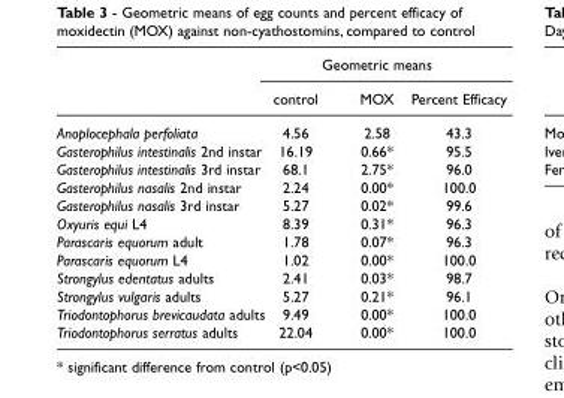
<table><thead><tr><td rowspan="2"></td><td colspan="3">Geometric means</td></tr><tr><td>control</td><td>MOX</td><td>Percent Efficacy</td></tr></thead><tbody><tr><td>Anoplocephala perfoliata</td><td>4.56</td><td>2.58</td><td>43.3</td></tr><tr><td>Gasterophilus intestinalis 2nd instar</td><td>16.19</td><td>0.66*</td><td>95.5</td></tr><tr><td>Gasterophilus intestinalis 3rd instar</td><td>68.1</td><td>2.75*</td><td>96.0</td></tr><tr><td>Gasterophilus nasalis 2nd instar</td><td>2.24</td><td>0.00*</td><td>100.0</td></tr><tr><td>Gasterophilus nasalis 3rd instar</td><td>5.27</td><td>0.02*</td><td>99.6</td></tr><tr><td>Oxyuris equi L4</td><td>8.39</td><td>0.31*</td><td>96.3</td></tr><tr><td>Parascaris equorum adult</td><td>1.78</td><td>0.07*</td><td>96.3</td></tr><tr><td>Parascaris equorum L4</td><td>1.02</td><td>0.00*</td><td>100.0</td></tr><tr><td>Strongylus edentatus adults</td><td>2.41</td><td>0.03*</td><td>98.7</td></tr><tr><td>Strongylus vulgaris adults</td><td>5.27</td><td>0.21*</td><td>96.1</td></tr><tr><td>Triodontophorus brevicaudata adults</td><td>9.49</td><td>0.00*</td><td>100.0</td></tr><tr><td>Triodontophorus serratus adults</td><td>22.04</td><td>0.00*</td><td>100.0</td></tr></tbody></table>